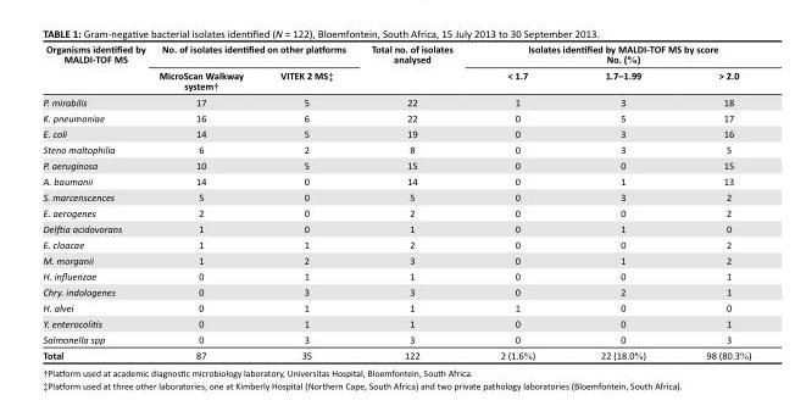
<table><thead><tr><td rowspan="2">Organisms identified by MALDI-TOF MS</td><td colspan="2">No. of isolates identified on other platforms</td><td rowspan="2">Total no. of isolates analysed</td><td colspan="3">Isolates identified by MALDI-TOF MS by score No. (%)</td></tr><tr><td>MicroScan Walkway system†</td><td>VITEK 2 MS‡</td><td>&lt; 1.7</td><td>1.7–1.99</td><td>&gt; 2.0</td></tr></thead><tbody><tr><td>P. mirabilis</td><td>17</td><td>5</td><td>22</td><td>1</td><td>3</td><td>18</td></tr><tr><td>K. pneumoniae</td><td>16</td><td>6</td><td>22</td><td>0</td><td>5</td><td>17</td></tr><tr><td>E. coli</td><td>14</td><td>5</td><td>19</td><td>0</td><td>3</td><td>16</td></tr><tr><td>Steno maltophilia</td><td>6</td><td>2</td><td>8</td><td>0</td><td>3</td><td>5</td></tr><tr><td>P. aeruginosa</td><td>10</td><td>5</td><td>15</td><td>0</td><td>0</td><td>15</td></tr><tr><td>A. baumanii</td><td>14</td><td>0</td><td>14</td><td>0</td><td>1</td><td>13</td></tr><tr><td>S. marcenscences</td><td>5</td><td>0</td><td>5</td><td>0</td><td>3</td><td>2</td></tr><tr><td>E. aerogenes</td><td>2</td><td>0</td><td>2</td><td>0</td><td>0</td><td>2</td></tr><tr><td>Delftia acidovorans</td><td>1</td><td>0</td><td>1</td><td>0</td><td>1</td><td>0</td></tr><tr><td>E. cloacae</td><td>1</td><td>1</td><td>2</td><td>0</td><td>0</td><td>2</td></tr><tr><td>M. morganii</td><td>1</td><td>2</td><td>3</td><td>0</td><td>1</td><td>2</td></tr><tr><td>H. influenzae</td><td>0</td><td>1</td><td>1</td><td>0</td><td>0</td><td>1</td></tr><tr><td>Chry. indologenes</td><td>0</td><td>3</td><td>3</td><td>0</td><td>2</td><td>1</td></tr><tr><td>H. alvei</td><td>0</td><td>1</td><td>1</td><td>1</td><td>0</td><td>0</td></tr><tr><td>Y. enterocolitis</td><td>0</td><td>1</td><td>1</td><td>0</td><td>0</td><td>1</td></tr><tr><td>Salmonella spp</td><td>0</td><td>3</td><td>3</td><td>0</td><td>0</td><td>3</td></tr><tr><td>Total</td><td>87</td><td>35</td><td>122</td><td>2 (1.6%)</td><td>22 (18.0%)</td><td>98 (80.3%)</td></tr></tbody></table>